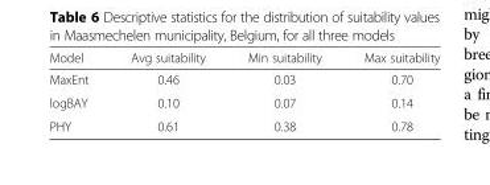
<table><thead><tr><td>Model</td><td>Avg suitability</td><td>Min suitability</td><td>Max suitability</td></tr></thead><tbody><tr><td>MaxEnt</td><td>0.46</td><td>0.03</td><td>0.70</td></tr><tr><td>logBAY</td><td>0.10</td><td>0.07</td><td>0.14</td></tr><tr><td>PHY</td><td>0.61</td><td>0.38</td><td>0.78</td></tr></tbody></table>